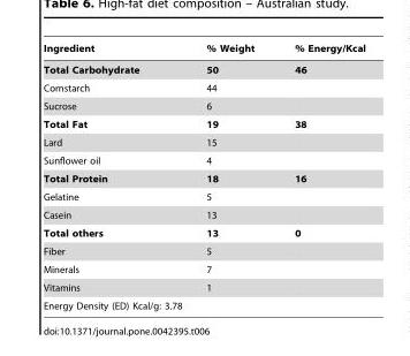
<table><thead><tr><td>Ingredient</td><td>% Weight</td><td>% Energy/Kcal</td></tr></thead><tbody><tr><td>Total Carbohydrate</td><td>50</td><td>46</td></tr><tr><td>Cornstarch</td><td>44</td><td></td></tr><tr><td>Sucrose</td><td>6</td><td></td></tr><tr><td>Total Fat</td><td>19</td><td>38</td></tr><tr><td>Lard</td><td>15</td><td></td></tr><tr><td>Sunflower oil</td><td>4</td><td></td></tr><tr><td>Total Protein</td><td>18</td><td>16</td></tr><tr><td>Gelatine</td><td>5</td><td></td></tr><tr><td>Casein</td><td>13</td><td></td></tr><tr><td>Total others</td><td>13</td><td>0</td></tr><tr><td>Fiber</td><td>5</td><td></td></tr><tr><td>Minerals</td><td>7</td><td></td></tr><tr><td>Vitamins</td><td>1</td><td></td></tr><tr><td colspan="2">Energy Density (ED) Kcal/g: 3.78</td><td></td></tr></tbody></table>